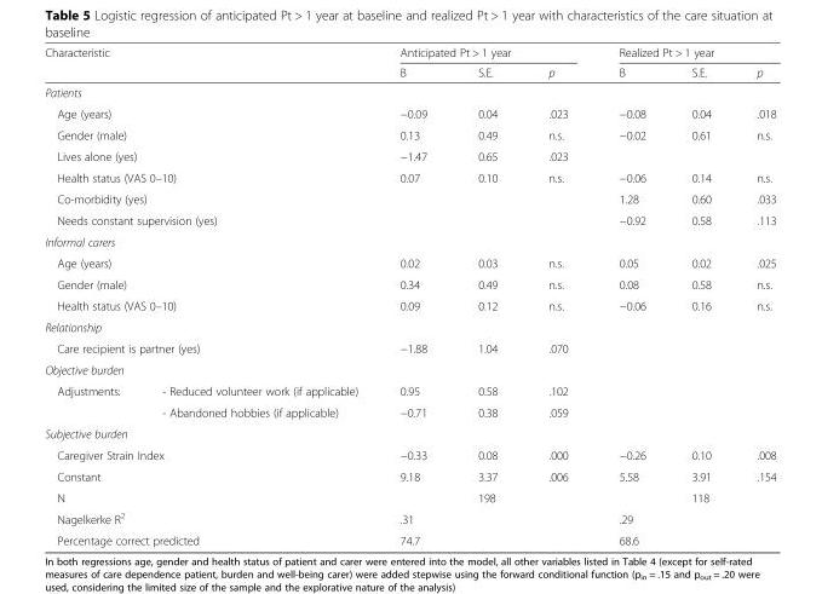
<table><thead><tr><td colspan="2">Characteristic</td><td colspan="3">Anticipated Pt &gt; 1 year</td><td colspan="3">Realized Pt &gt; 1 year</td></tr><tr><td></td><td></td><td>B</td><td>S.E.</td><td>p</td><td>B</td><td>S.E.</td><td>p</td></tr></thead><tbody><tr><td colspan="8">Patients</td></tr><tr><td colspan="2">Age (years)</td><td>−0.09</td><td>0.04</td><td>.023</td><td>−0.08</td><td>0.04</td><td>.018</td></tr><tr><td colspan="2">Gender (male)</td><td>0.13</td><td>0.49</td><td>n.s.</td><td>−0.02</td><td>0.61</td><td>n.s.</td></tr><tr><td colspan="2">Lives alone (yes)</td><td>−1.47</td><td>0.65</td><td>.023</td><td></td><td></td><td></td></tr><tr><td colspan="2">Health status (VAS 0–10)</td><td>0.07</td><td>0.10</td><td>n.s.</td><td>−0.06</td><td>0.14</td><td>n.s.</td></tr><tr><td colspan="2">Co-morbidity (yes)</td><td></td><td></td><td></td><td>1.28</td><td>0.60</td><td>.033</td></tr><tr><td colspan="2">Needs constant supervision (yes)</td><td></td><td></td><td></td><td>−0.92</td><td>0.58</td><td>.113</td></tr><tr><td colspan="8">Informal carers</td></tr><tr><td colspan="2">Age (years)</td><td>0.02</td><td>0.03</td><td>n.s.</td><td>0.05</td><td>0.02</td><td>.025</td></tr><tr><td colspan="2">Gender (male)</td><td>0.34</td><td>0.49</td><td>n.s.</td><td>0.08</td><td>0.58</td><td>n.s.</td></tr><tr><td colspan="2">Health status (VAS 0–10)</td><td>0.09</td><td>0.12</td><td>n.s.</td><td>−0.06</td><td>0.16</td><td>n.s.</td></tr><tr><td colspan="8">Relationship</td></tr><tr><td colspan="2">Care recipient is partner (yes)</td><td>−1.88</td><td>1.04</td><td>.070</td><td></td><td></td><td></td></tr><tr><td colspan="8">Objective burden</td></tr><tr><td rowspan="2">Adjustments:</td><td>- Reduced volunteer work (if applicable)</td><td>0.95</td><td>0.58</td><td>.102</td><td></td><td></td><td></td></tr><tr><td>- Abandoned hobbies (if applicable)</td><td>−0.71</td><td>0.38</td><td>.059</td><td></td><td></td><td></td></tr><tr><td colspan="8">Subjective burden</td></tr><tr><td colspan="2">Caregiver Strain Index</td><td>−0.33</td><td>0.08</td><td>.000</td><td>−0.26</td><td>0.10</td><td>.008</td></tr><tr><td colspan="2">Constant</td><td>9.18</td><td>3.37</td><td>.006</td><td>5.58</td><td>3.91</td><td>.154</td></tr><tr><td colspan="2">N</td><td></td><td>198</td><td></td><td></td><td>118</td><td></td></tr><tr><td colspan="2">Nagelkerke R<sup>2</sup></td><td>.31</td><td></td><td></td><td>.29</td><td></td><td></td></tr><tr><td colspan="2">Percentage correct predicted</td><td>74.7</td><td></td><td></td><td>68.6</td><td></td><td></td></tr></tbody></table>